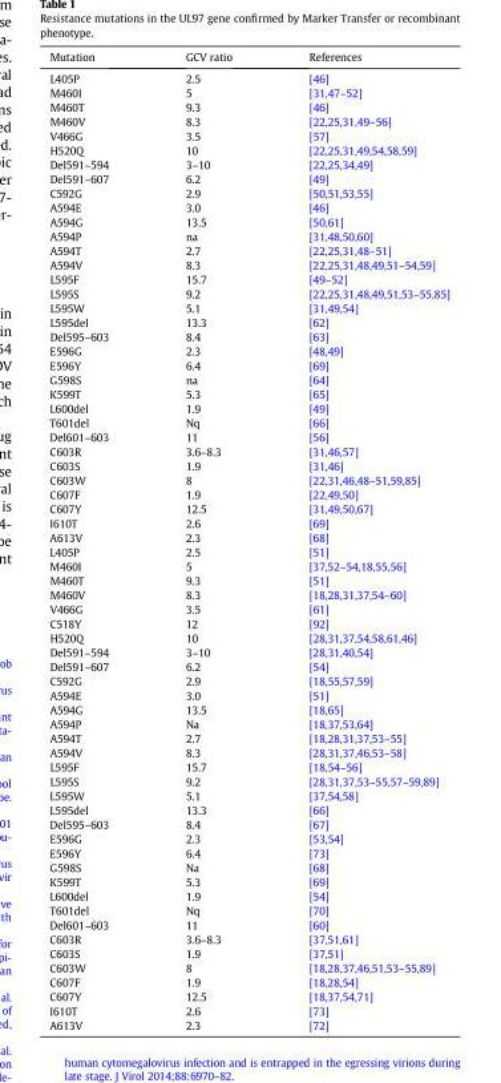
<table><thead><tr><td>Mutation</td><td>GCV ratio</td><td>References</td></tr></thead><tbody><tr><td>L405P</td><td>2.5</td><td>[46]</td></tr><tr><td>M460I</td><td>5</td><td>[31,47–52]</td></tr><tr><td>M460T</td><td>9.3</td><td>[46]</td></tr><tr><td>M460V</td><td>8.3</td><td>[22,25,31,49–56]</td></tr><tr><td>V466G</td><td>3.5</td><td>[57]</td></tr><tr><td>H520Q</td><td>10</td><td>[22,25,31,49,54,58,59]</td></tr><tr><td>Del591–594</td><td>3–10</td><td>[22,25,34,49]</td></tr><tr><td>Del591–607</td><td>6.2</td><td>[49]</td></tr><tr><td>C592G</td><td>2.9</td><td>[50,51,53,55]</td></tr><tr><td>A594E</td><td>3.0</td><td>[46]</td></tr><tr><td>A594G</td><td>13.5</td><td>[50,61]</td></tr><tr><td>A594P</td><td>na</td><td>[31,48,50,60]</td></tr><tr><td>A594T</td><td>2.7</td><td>[22,25,31,48–51]</td></tr><tr><td>A594V</td><td>8.3</td><td>[22,25,31,48,49,51–54,59]</td></tr><tr><td>L595F</td><td>15.7</td><td>[49–52]</td></tr><tr><td>L595S</td><td>9.2</td><td>[22,25,31,48,49,51,53–55,85]</td></tr><tr><td>L595W</td><td>5.1</td><td>[31,49,54]</td></tr><tr><td>L595del</td><td>13.3</td><td>[62]</td></tr><tr><td>Del595–603</td><td>8.4</td><td>[63]</td></tr><tr><td>E596G</td><td>2.3</td><td>[48,49]</td></tr><tr><td>E596Y</td><td>6.4</td><td>[69]</td></tr><tr><td>G598S</td><td>na</td><td>[64]</td></tr><tr><td>K599T</td><td>5.3</td><td>[65]</td></tr><tr><td>L600del</td><td>1.9</td><td>[49]</td></tr><tr><td>T601del</td><td>Nq</td><td>[66]</td></tr><tr><td>Del601–603</td><td>11</td><td>[56]</td></tr><tr><td>C603R</td><td>3.6–8.3</td><td>[31,46,57]</td></tr><tr><td>C603S</td><td>1.9</td><td>[31,46]</td></tr><tr><td>C603W</td><td>8</td><td>[22,31,46,48–51,59,85]</td></tr><tr><td>C607F</td><td>1.9</td><td>[22,49,50]</td></tr><tr><td>C607Y</td><td>12.5</td><td>[31,49,50,67]</td></tr><tr><td>I610T</td><td>2.6</td><td>[69]</td></tr><tr><td>A613V</td><td>2.3</td><td>[68]</td></tr><tr><td>L405P</td><td>2.5</td><td>[51]</td></tr><tr><td>M460I</td><td>5</td><td>[37,52–54,18,55,56]</td></tr><tr><td>M460T</td><td>9.3</td><td>[51]</td></tr><tr><td>M460V</td><td>8.3</td><td>[18,28,31,37,54–60]</td></tr><tr><td>V466G</td><td>3.5</td><td>[61]</td></tr><tr><td>C518Y</td><td>12</td><td>[92]</td></tr><tr><td>H520Q</td><td>10</td><td>[28,31,37,54,58,61,46]</td></tr><tr><td>Del591–594</td><td>3–10</td><td>[28,31,40,54]</td></tr><tr><td>Del591–607</td><td>6.2</td><td>[54]</td></tr><tr><td>C592G</td><td>2.9</td><td>[18,55,57,59]</td></tr><tr><td>A594E</td><td>3.0</td><td>[51]</td></tr><tr><td>A594G</td><td>13.5</td><td>[18,65]</td></tr><tr><td>A594P</td><td>Na</td><td>[18,37,53,64]</td></tr><tr><td>A594T</td><td>2.7</td><td>[18,28,31,37,53–55]</td></tr><tr><td>A594V</td><td>8.3</td><td>[28,31,37,46,53–58]</td></tr><tr><td>L595F</td><td>15.7</td><td>[18,54–56]</td></tr><tr><td>L595S</td><td>9.2</td><td>[28,31,37,53–55,57–59,89]</td></tr><tr><td>L595W</td><td>5.1</td><td>[37,54,58]</td></tr><tr><td>L595del</td><td>13.3</td><td>[66]</td></tr><tr><td>Del595–603</td><td>8.4</td><td>[67]</td></tr><tr><td>E596G</td><td>2.3</td><td>[53,54]</td></tr><tr><td>E596Y</td><td>6.4</td><td>[73]</td></tr><tr><td>G598S</td><td>Na</td><td>[68]</td></tr><tr><td>K599T</td><td>5.3</td><td>[69]</td></tr><tr><td>L600del</td><td>1.9</td><td>[54]</td></tr><tr><td>T601del</td><td>Nq</td><td>[70]</td></tr><tr><td>Del601–603</td><td>11</td><td>[60]</td></tr><tr><td>C603R</td><td>3.6–8.3</td><td>[37,51,61]</td></tr><tr><td>C603S</td><td>1.9</td><td>[37,51]</td></tr><tr><td>C603W</td><td>8</td><td>[18,28,37,46,51,53–55,89]</td></tr><tr><td>C607F</td><td>1.9</td><td>[18,28,54]</td></tr><tr><td>C607Y</td><td>12.5</td><td>[18,37,54,71]</td></tr><tr><td>I610T</td><td>2.6</td><td>[73]</td></tr><tr><td>A613V</td><td>2.3</td><td>[72]</td></tr></tbody></table>